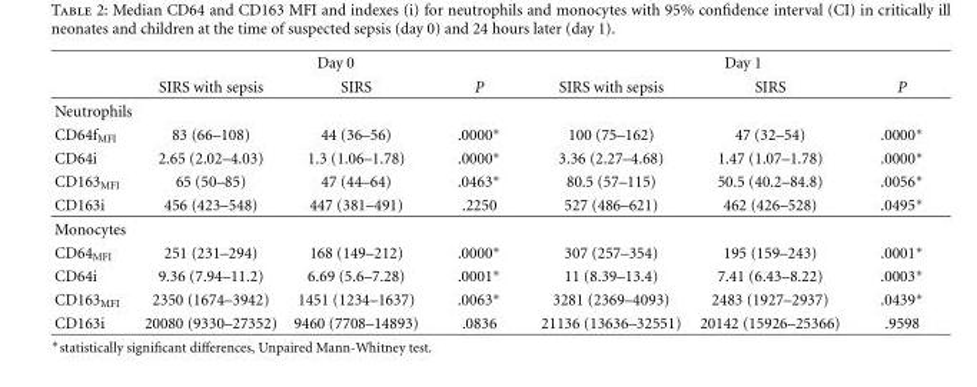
<table><thead><tr><td rowspan="2"></td><td colspan="3">Day 0</td><td colspan="3">Day 1</td></tr><tr><td>SIRS with sepsis</td><td>SIRS</td><td>P</td><td>SIRS with sepsis</td><td>SIRS</td><td>P</td></tr></thead><tbody><tr><td colspan="7">Neutrophils</td></tr><tr><td>CD64fMFI</td><td>83 (66–108)</td><td>44 (36–56)</td><td>.0000∗</td><td>100 (75–162)</td><td>47 (32–54)</td><td>.0000∗</td></tr><tr><td>CD64i</td><td>2.65 (2.02–4.03)</td><td>1.3 (1.06–1.78)</td><td>.0000∗</td><td>3.36 (2.27–4.68)</td><td>1.47 (1.07–1.78)</td><td>.0000∗</td></tr><tr><td>CD163MFI</td><td>65 (50–85)</td><td>47 (44–64)</td><td>.0463∗</td><td>80.5 (57–115)</td><td>50.5 (40.2–84.8)</td><td>.0056∗</td></tr><tr><td>CD163i</td><td>456 (423–548)</td><td>447 (381–491)</td><td>.2250</td><td>527 (486–621)</td><td>462 (426–528)</td><td>.0495∗</td></tr><tr><td colspan="7">Monocytes</td></tr><tr><td>CD64MFI</td><td>251 (231–294)</td><td>168 (149–212)</td><td>.0000∗</td><td>307 (257–354)</td><td>195 (159–243)</td><td>.0001∗</td></tr><tr><td>CD64i</td><td>9.36 (7.94–11.2)</td><td>6.69 (5.6–7.28)</td><td>.0001∗</td><td>11 (8.39–13.4)</td><td>7.41 (6.43–8.22)</td><td>.0003∗</td></tr><tr><td>CD163MFI</td><td>2350 (1674–3942)</td><td>1451 (1234–1637)</td><td>.0063∗</td><td>3281 (2369–4093)</td><td>2483 (1927–2937)</td><td>.0439∗</td></tr><tr><td>CD163i</td><td>20080 (9330–27352)</td><td>9460 (7708–14893)</td><td>.0836</td><td>21136 (13636–32551)</td><td>20142 (15926–25366)</td><td>.9598</td></tr></tbody></table>